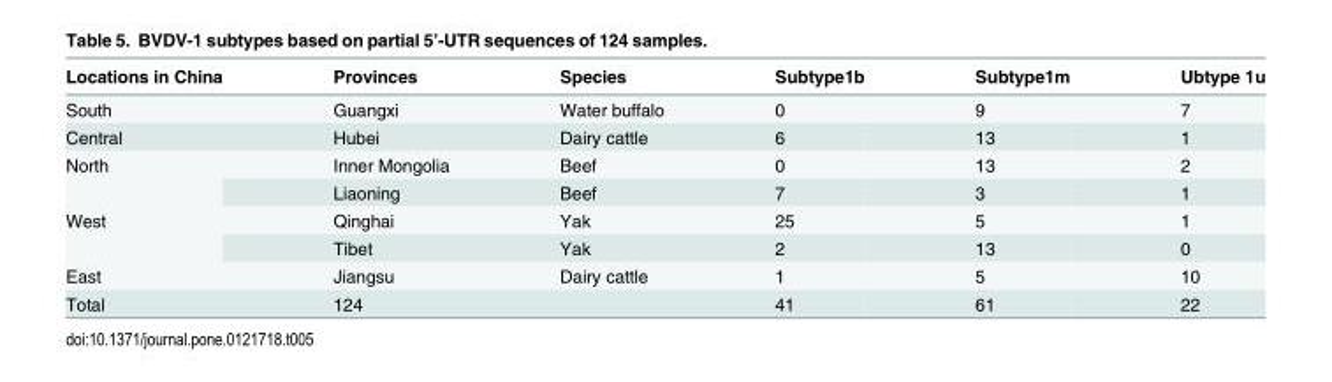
<table><thead><tr><td>Locations in China</td><td>Provinces</td><td>Species</td><td>Subtype1b</td><td>Subtype1m</td><td>Ubtype 1u</td></tr></thead><tbody><tr><td>South</td><td>Guangxi</td><td>Water buffalo</td><td>0</td><td>9</td><td>7</td></tr><tr><td>Central</td><td>Hubei</td><td>Dairy cattle</td><td>6</td><td>13</td><td>1</td></tr><tr><td rowspan="2">North</td><td>Inner Mongolia</td><td>Beef</td><td>0</td><td>13</td><td>2</td></tr><tr><td>Liaoning</td><td>Beef</td><td>7</td><td>3</td><td>1</td></tr><tr><td rowspan="2">West</td><td>Qinghai</td><td>Yak</td><td>25</td><td>5</td><td>1</td></tr><tr><td>Tibet</td><td>Yak</td><td>2</td><td>13</td><td>0</td></tr><tr><td>East</td><td>Jiangsu</td><td>Dairy cattle</td><td>1</td><td>5</td><td>10</td></tr><tr><td>Total</td><td colspan="2">124</td><td>41</td><td>61</td><td>22</td></tr></tbody></table>